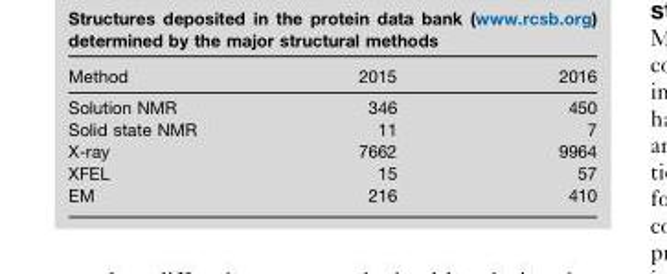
<table><thead><tr><td>Method</td><td>2015</td><td>2016</td></tr></thead><tbody><tr><td>Solution NMR</td><td>346</td><td>450</td></tr><tr><td>Solid state NMR</td><td>11</td><td>7</td></tr><tr><td>X-ray</td><td>7662</td><td>9964</td></tr><tr><td>XFEL</td><td>15</td><td>57</td></tr><tr><td>EM</td><td>216</td><td>410</td></tr></tbody></table>